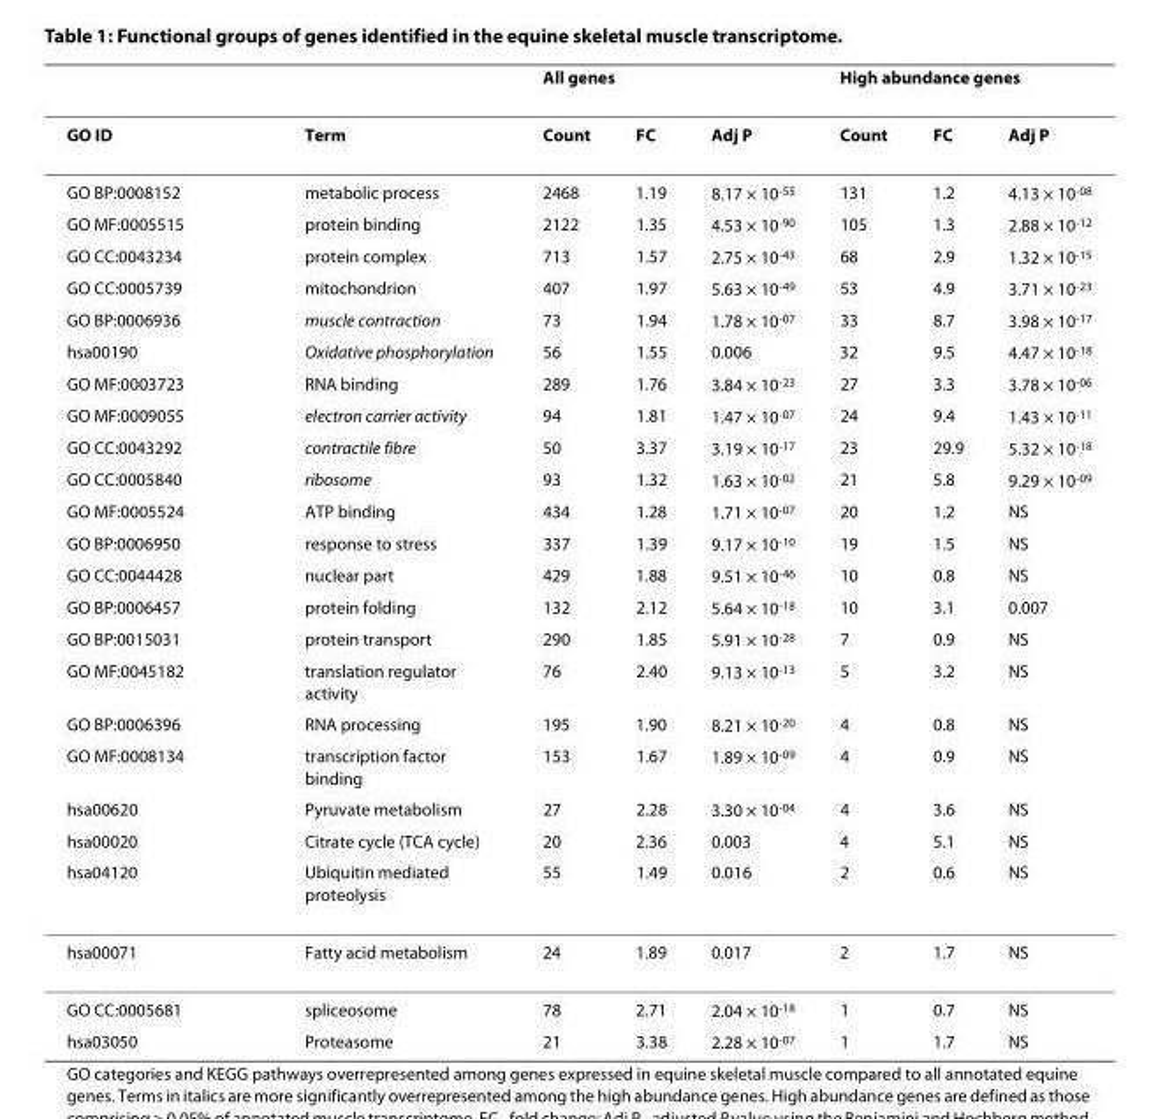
<table><thead><tr><td rowspan="2">GO ID</td><td rowspan="2">Term</td><td colspan="3">All genes</td><td colspan="3">High abundance genes</td></tr><tr><td>Count</td><td>FC</td><td>Adj P</td><td>Count</td><td>FC</td><td>Adj P</td></tr></thead><tbody><tr><td>GO BP:0008152</td><td>metabolic process</td><td>2468</td><td>1.19</td><td>8.17 × 10<sup>-55</sup></td><td>131</td><td>1.2</td><td>4.13 × 10<sup>-08</sup></td></tr><tr><td>GO MF:0005515</td><td>protein binding</td><td>2122</td><td>1.35</td><td>4.53 × 10<sup>-90</sup></td><td>105</td><td>1.3</td><td>2.88 × 10<sup>-12</sup></td></tr><tr><td>GO CC:0043234</td><td>protein complex</td><td>713</td><td>1.57</td><td>2.75 × 10<sup>-43</sup></td><td>68</td><td>2.9</td><td>1.32 × 10<sup>-15</sup></td></tr><tr><td>GO CC:0005739</td><td>mitochondrion</td><td>407</td><td>1.97</td><td>5.63 × 10<sup>-49</sup></td><td>53</td><td>4.9</td><td>3.71 × 10<sup>-23</sup></td></tr><tr><td>GO BP:0006936</td><td>muscle contraction</td><td>73</td><td>1.94</td><td>1.78 × 10<sup>-07</sup></td><td>33</td><td>8.7</td><td>3.98 × 10<sup>-17</sup></td></tr><tr><td>hsa00190</td><td>Oxidative phosphorylation</td><td>56</td><td>1.55</td><td>0.006</td><td>32</td><td>9.5</td><td>4.47 × 10<sup>-18</sup></td></tr><tr><td>GO MF:0003723</td><td>RNA binding</td><td>289</td><td>1.76</td><td>3.84 × 10<sup>-23</sup></td><td>27</td><td>3.3</td><td>3.78 × 10<sup>-06</sup></td></tr><tr><td>GO MF:0009055</td><td>electron carrier activity</td><td>94</td><td>1.81</td><td>1.47 × 10<sup>-07</sup></td><td>24</td><td>9.4</td><td>1.43 × 10<sup>-11</sup></td></tr><tr><td>GO CC:0043292</td><td>contractile fibre</td><td>50</td><td>3.37</td><td>3.19 × 10<sup>-17</sup></td><td>23</td><td>29.9</td><td>5.32 × 10<sup>-18</sup></td></tr><tr><td>GO CC:0005840</td><td>ribosome</td><td>93</td><td>1.32</td><td>1.63 × 10<sup>-02</sup></td><td>21</td><td>5.8</td><td>9.29 × 10<sup>-09</sup></td></tr><tr><td>GO MF:0005524</td><td>ATP binding</td><td>434</td><td>1.28</td><td>1.71 × 10<sup>-07</sup></td><td>20</td><td>1.2</td><td>NS</td></tr><tr><td>GO BP:0006950</td><td>response to stress</td><td>337</td><td>1.39</td><td>9.17 × 10<sup>-10</sup></td><td>19</td><td>1.5</td><td>NS</td></tr><tr><td>GO CC:0044428</td><td>nuclear part</td><td>429</td><td>1.88</td><td>9.51 × 10<sup>-46</sup></td><td>10</td><td>0.8</td><td>NS</td></tr><tr><td>GO BP:0006457</td><td>protein folding</td><td>132</td><td>2.12</td><td>5.64 × 10<sup>-18</sup></td><td>10</td><td>3.1</td><td>0.007</td></tr><tr><td>GO BP:0015031</td><td>protein transport</td><td>290</td><td>1.85</td><td>5.91 × 10<sup>-28</sup></td><td>7</td><td>0.9</td><td>NS</td></tr><tr><td>GO MF:0045182</td><td>translation regulator activity</td><td>76</td><td>2.40</td><td>9.13 × 10<sup>-13</sup></td><td>5</td><td>3.2</td><td>NS</td></tr><tr><td>GO BP:0006396</td><td>RNA processing</td><td>195</td><td>1.90</td><td>8.21 × 10<sup>-20</sup></td><td>4</td><td>0.8</td><td>NS</td></tr><tr><td>GO MF:0008134</td><td>transcription factor binding</td><td>153</td><td>1.67</td><td>1.89 × 10<sup>-09</sup></td><td>4</td><td>0.9</td><td>NS</td></tr><tr><td>hsa00620</td><td>Pyruvate metabolism</td><td>27</td><td>2.28</td><td>3.30 × 10<sup>-04</sup></td><td>4</td><td>3.6</td><td>NS</td></tr><tr><td>hsa00020</td><td>Citrate cycle (TCA cycle)</td><td>20</td><td>2.36</td><td>0.003</td><td>4</td><td>5.1</td><td>NS</td></tr><tr><td>hsa04120</td><td>Ubiquitin mediated proteolysis</td><td>55</td><td>1.49</td><td>0.016</td><td>2</td><td>0.6</td><td>NS</td></tr><tr><td>hsa00071</td><td>Fatty acid metabolism</td><td>24</td><td>1.89</td><td>0.017</td><td>2</td><td>1.7</td><td>NS</td></tr><tr><td>GO CC:0005681</td><td>spliceosome</td><td>78</td><td>2.71</td><td>2.04 × 10<sup>-18</sup></td><td>1</td><td>0.7</td><td>NS</td></tr><tr><td>hsa03050</td><td>Proteasome</td><td>21</td><td>3.38</td><td>2.28 × 10<sup>-07</sup></td><td>1</td><td>1.7</td><td>NS</td></tr></tbody></table>